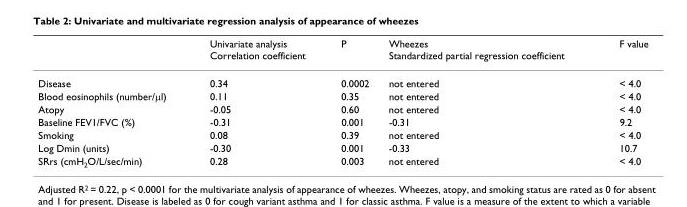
<table><thead><tr><td></td><td>Univariate analysis Correlation coefficient</td><td>P</td><td>Wheezes Standardized partial regression coefficient</td><td>F value</td></tr></thead><tbody><tr><td>Disease</td><td>0.34</td><td>0.0002</td><td>not entered</td><td>&lt; 4.0</td></tr><tr><td>Blood eosinophils (number/μl)</td><td>0.11</td><td>0.35</td><td>not entered</td><td>&lt; 4.0</td></tr><tr><td>Atopy</td><td>-0.05</td><td>0.60</td><td>not entered</td><td>&lt; 4.0</td></tr><tr><td>Baseline FEV1/FVC (%)</td><td>-0.31</td><td>0.001</td><td>-0.31</td><td>9.2</td></tr><tr><td>Smoking</td><td>0.08</td><td>0.39</td><td>not entered</td><td>&lt; 4.0</td></tr><tr><td>Log Dmin (units)</td><td>-0.30</td><td>0.001</td><td>-0.33</td><td>10.7</td></tr><tr><td>SRrs (cmH<sub>2</sub>O/L/sec/min)</td><td>0.28</td><td>0.003</td><td>not entered</td><td>&lt; 4.0</td></tr></tbody></table>